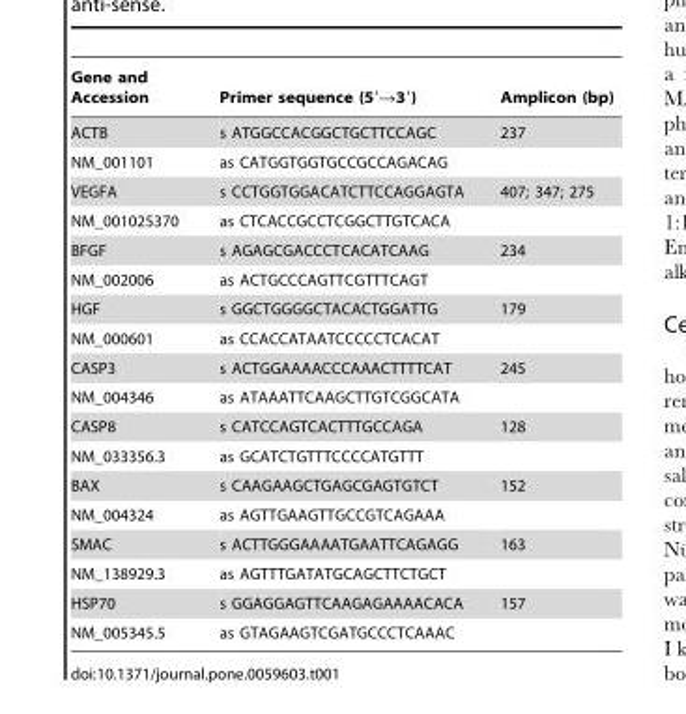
<table><thead><tr><td>Gene and Accession</td><td>Primer sequence (5′→3′)</td><td>Amplicon (bp)</td></tr></thead><tbody><tr><td>ACTB</td><td>s ATGGCCACGGCTGCTTCCAGC</td><td>237</td></tr><tr><td>NM_001101</td><td>as CATGGTGGTGCCGCCAGACAG</td><td></td></tr><tr><td>VEGFA</td><td>s CCTGGTGGACATCTTCCAGGAGTA</td><td>407; 347; 275</td></tr><tr><td>NM_001025370</td><td>as CTCACCGCCTCGGCTTGTCACA</td><td></td></tr><tr><td>BFGF</td><td>s AGAGCGACCCTCACATCAAG</td><td>234</td></tr><tr><td>NM_002006</td><td>as ACTGCCCAGTTCGTTTCAGT</td><td></td></tr><tr><td>HGF</td><td>s GGCTGGGGCTACACTGGATTG</td><td>179</td></tr><tr><td>NM_000601</td><td>as CCACCATAATCCCCCTCACAT</td><td></td></tr><tr><td>CASP3</td><td>s ACTGGAAAACCCAAACTTTTCAT</td><td>245</td></tr><tr><td>NM_004346</td><td>as ATAAATTCAAGCTTGTCGGCATA</td><td></td></tr><tr><td>CASP8</td><td>s CATCCAGTCACTTTGCCAGA</td><td>128</td></tr><tr><td>NM_033356.3</td><td>as GCATCTGTTTCCCCATGTTT</td><td></td></tr><tr><td>BAX</td><td>s CAAGAAGCTGAGCGAGTGTCT</td><td>152</td></tr><tr><td>NM_004324</td><td>as AGTTGAAGTTGCCGTCAGAAA</td><td></td></tr><tr><td>SMAC</td><td>s ACTTGGGAAAATGAATTCAGAGG</td><td>163</td></tr><tr><td>NM_138929.3</td><td>as AGTTTGATATGCAGCTTCTGCT</td><td></td></tr><tr><td>HSP70</td><td>s GGAGGAGTTCAAGAGAAAACACA</td><td>157</td></tr><tr><td>NM_005345.5</td><td>as GTAGAAGTCGATGCCCTCAAAC</td><td></td></tr></tbody></table>